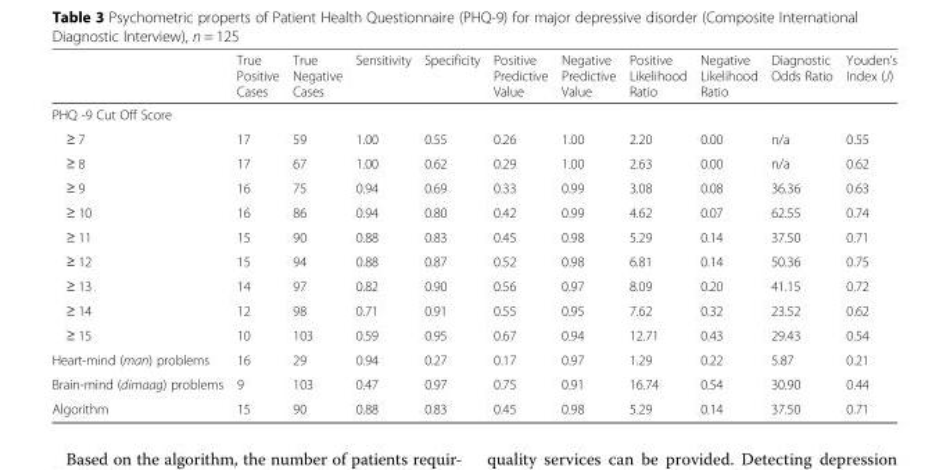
<table><thead><tr><td></td><td>True Positive Cases</td><td>True Negative Cases</td><td>Sensitivity</td><td>Specificity</td><td>Positive Predictive Value</td><td>Negative Predictive Value</td><td>Positive Likelihood Ratio</td><td>Negative Likelihood Ratio</td><td>Diagnostic Odds Ratio</td><td>Youden’s Index (J)</td></tr></thead><tbody><tr><td colspan="11">PHQ -9 Cut Off Score</td></tr><tr><td>≥ 7</td><td>17</td><td>59</td><td>1.00</td><td>0.55</td><td>0.26</td><td>1.00</td><td>2.20</td><td>0.00</td><td>n/a</td><td>0.55</td></tr><tr><td>≥ 8</td><td>17</td><td>67</td><td>1.00</td><td>0.62</td><td>0.29</td><td>1.00</td><td>2.63</td><td>0.00</td><td>n/a</td><td>0.62</td></tr><tr><td>≥ 9</td><td>16</td><td>75</td><td>0.94</td><td>0.69</td><td>0.33</td><td>0.99</td><td>3.08</td><td>0.08</td><td>36.36</td><td>0.63</td></tr><tr><td>≥ 10</td><td>16</td><td>86</td><td>0.94</td><td>0.80</td><td>0.42</td><td>0.99</td><td>4.62</td><td>0.07</td><td>62.55</td><td>0.74</td></tr><tr><td>≥ 11</td><td>15</td><td>90</td><td>0.88</td><td>0.83</td><td>0.45</td><td>0.98</td><td>5.29</td><td>0.14</td><td>37.50</td><td>0.71</td></tr><tr><td>≥ 12</td><td>15</td><td>94</td><td>0.88</td><td>0.87</td><td>0.52</td><td>0.98</td><td>6.81</td><td>0.14</td><td>50.36</td><td>0.75</td></tr><tr><td>≥ 13</td><td>14</td><td>97</td><td>0.82</td><td>0.90</td><td>0.56</td><td>0.97</td><td>8.09</td><td>0.20</td><td>41.15</td><td>0.72</td></tr><tr><td>≥ 14</td><td>12</td><td>98</td><td>0.71</td><td>0.91</td><td>0.55</td><td>0.95</td><td>7.62</td><td>0.32</td><td>23.52</td><td>0.62</td></tr><tr><td>≥ 15</td><td>10</td><td>103</td><td>0.59</td><td>0.95</td><td>0.67</td><td>0.94</td><td>12.71</td><td>0.43</td><td>29.43</td><td>0.54</td></tr><tr><td>Heart-mind (man) problems</td><td>16</td><td>29</td><td>0.94</td><td>0.27</td><td>0.17</td><td>0.97</td><td>1.29</td><td>0.22</td><td>5.87</td><td>0.21</td></tr><tr><td>Brain-mind (dimaag) problems</td><td>9</td><td>103</td><td>0.47</td><td>0.97</td><td>0.75</td><td>0.91</td><td>16.74</td><td>0.54</td><td>30.90</td><td>0.44</td></tr><tr><td>Algorithm</td><td>15</td><td>90</td><td>0.88</td><td>0.83</td><td>0.45</td><td>0.98</td><td>5.29</td><td>0.14</td><td>37.50</td><td>0.71</td></tr></tbody></table>